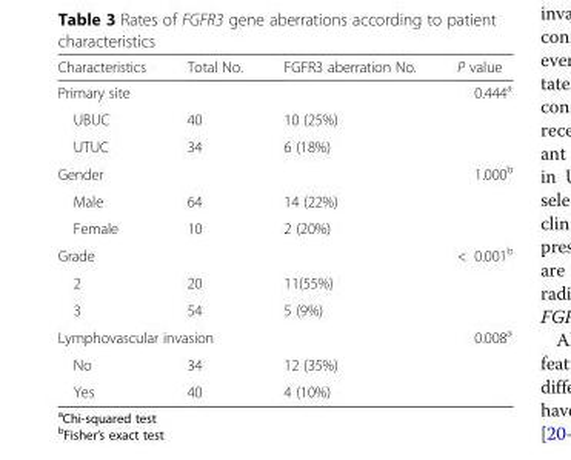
<table><thead><tr><td>Characteristics</td><td>Total No.</td><td>FGFR3 aberration No.</td><td>P value</td></tr></thead><tbody><tr><td colspan="3">Primary site</td><td rowspan="3">0.444<sup>a</sup></td></tr><tr><td>UBUC</td><td>40</td><td>10 (25%)</td></tr><tr><td>UTUC</td><td>34</td><td>6 (18%)</td></tr><tr><td colspan="3">Gender</td><td rowspan="3">1.000<sup>b</sup></td></tr><tr><td>Male</td><td>64</td><td>14 (22%)</td></tr><tr><td>Female</td><td>10</td><td>2 (20%)</td></tr><tr><td colspan="3">Grade</td><td rowspan="3">&lt; 0.001<sup>b</sup></td></tr><tr><td>2</td><td>20</td><td>11(55%)</td></tr><tr><td>3</td><td>54</td><td>5 (9%)</td></tr><tr><td colspan="3">Lymphovascular invasion</td><td rowspan="3">0.008<sup>a</sup></td></tr><tr><td>No</td><td>34</td><td>12 (35%)</td></tr><tr><td>Yes</td><td>40</td><td>4 (10%)</td></tr></tbody></table>